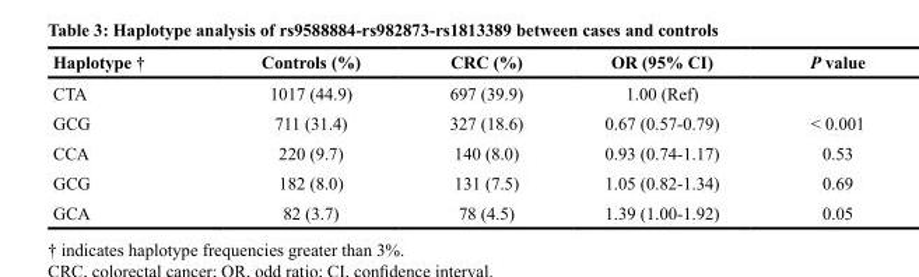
<table><thead><tr><td>Haplotype †</td><td>Controls (%)</td><td>CRC (%)</td><td>OR (95% CI)</td><td>P value</td></tr></thead><tbody><tr><td>CTA</td><td>1017 (44.9)</td><td>697 (39.9)</td><td>1.00 (Ref)</td><td></td></tr><tr><td>GCG</td><td>711 (31.4)</td><td>327 (18.6)</td><td>0.67 (0.57-0.79)</td><td>&lt; 0.001</td></tr><tr><td>CCA</td><td>220 (9.7)</td><td>140 (8.0)</td><td>0.93 (0.74-1.17)</td><td>0.53</td></tr><tr><td>GCG</td><td>182 (8.0)</td><td>131 (7.5)</td><td>1.05 (0.82-1.34)</td><td>0.69</td></tr><tr><td>GCA</td><td>82 (3.7)</td><td>78 (4.5)</td><td>1.39 (1.00-1.92)</td><td>0.05</td></tr></tbody></table>